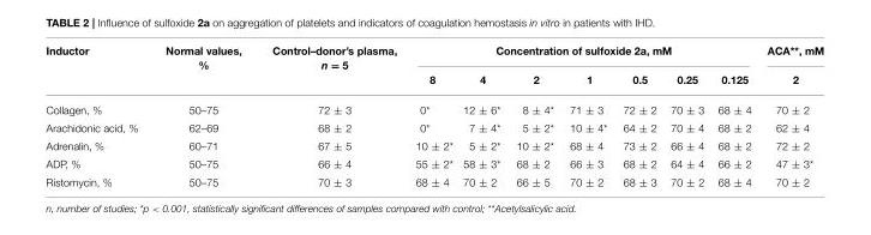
<table><thead><tr><td rowspan="2">Inductor</td><td rowspan="2">Normal values, %</td><td rowspan="2">Control–donor’s plasma, n = 5</td><td colspan="7">Concentration of sulfoxide 2a, mM</td><td rowspan="2">ACA**, mM 2</td></tr><tr><td>8</td><td>4</td><td>2</td><td>1</td><td>0.5</td><td>0.25</td><td>0.125</td></tr></thead><tbody><tr><td>Collagen, %</td><td>50–75</td><td>72 ± 3</td><td>0*</td><td>12 ± 6*</td><td>8 ± 4*</td><td>71 ± 3</td><td>72 ± 2</td><td>70 ± 3</td><td>68 ± 4</td><td>70 ± 2</td></tr><tr><td>Arachidonic acid, %</td><td>62–69</td><td>68 ± 2</td><td>0*</td><td>7 ± 4*</td><td>5 ± 2*</td><td>10 ± 4*</td><td>64 ± 2</td><td>70 ± 4</td><td>68 ± 2</td><td>62 ± 4</td></tr><tr><td>Adrenalin, %</td><td>60–71</td><td>67 ± 5</td><td>10 ± 2*</td><td>5 ± 2*</td><td>10 ± 2*</td><td>68 ± 4</td><td>73 ± 2</td><td>66 ± 4</td><td>68 ± 2</td><td>72 ± 2</td></tr><tr><td>ADP, %</td><td>50–75</td><td>66 ± 4</td><td>55 ± 2*</td><td>58 ± 3*</td><td>68 ± 2</td><td>66 ± 3</td><td>68 ± 2</td><td>64 ± 4</td><td>66 ± 2</td><td>47 ± 3*</td></tr><tr><td>Ristomycin, %</td><td>50–75</td><td>70 ± 3</td><td>68 ± 4</td><td>70 ± 2</td><td>66 ± 5</td><td>70 ± 2</td><td>68 ± 3</td><td>70 ± 2</td><td>68 ± 4</td><td>70 ± 2</td></tr></tbody></table>